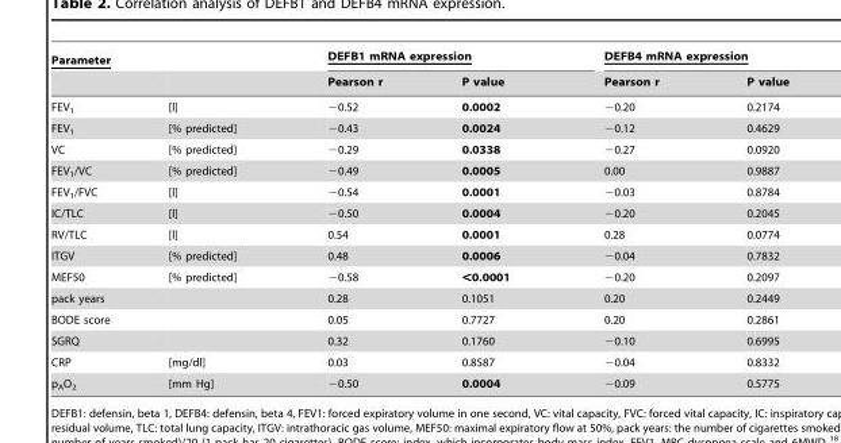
<table><thead><tr><td colspan="2">Parameter</td><td colspan="2">DEFB1 mRNA expression</td><td colspan="2">DEFB4 mRNA expression</td></tr><tr><td></td><td></td><td>Pearson r</td><td>P value</td><td>Pearson r</td><td>P value</td></tr></thead><tbody><tr><td>FEV<sub>1</sub></td><td>[l]</td><td>−0.52</td><td>0.0002</td><td>−0.20</td><td>0.2174</td></tr><tr><td>FEV<sub>1</sub></td><td>[% predicted]</td><td>−0.43</td><td>0.0024</td><td>−0.12</td><td>0.4629</td></tr><tr><td>VC</td><td>[% predicted]</td><td>−0.29</td><td>0.0338</td><td>−0.27</td><td>0.0920</td></tr><tr><td>FEV<sub>1</sub>/VC</td><td>[% predicted]</td><td>−0.49</td><td>0.0005</td><td>0.00</td><td>0.9887</td></tr><tr><td>FEV<sub>1</sub>/FVC</td><td>[l]</td><td>−0.54</td><td>0.0001</td><td>−0.03</td><td>0.8784</td></tr><tr><td>IC/TLC</td><td>[l]</td><td>−0.50</td><td>0.0004</td><td>−0.20</td><td>0.2045</td></tr><tr><td>RV/TLC</td><td>[l]</td><td>0.54</td><td>0.0001</td><td>0.28</td><td>0.0774</td></tr><tr><td>ITGV</td><td>[% predicted]</td><td>0.48</td><td>0.0006</td><td>−0.04</td><td>0.7832</td></tr><tr><td>MEF50</td><td>[% predicted]</td><td>−0.58</td><td>&lt;0.0001</td><td>−0.20</td><td>0.2097</td></tr><tr><td>pack years</td><td></td><td>0.28</td><td>0.1051</td><td>0.20</td><td>0.2449</td></tr><tr><td>BODE score</td><td></td><td>0.05</td><td>0.7727</td><td>0.20</td><td>0.2861</td></tr><tr><td>SGRQ</td><td></td><td>0.32</td><td>0.1760</td><td>−0.10</td><td>0.6995</td></tr><tr><td>CRP</td><td>[mg/dl]</td><td>0.03</td><td>0.8587</td><td>−0.04</td><td>0.8332</td></tr><tr><td>p<sub>A</sub>O<sub>2</sub></td><td>[mm Hg]</td><td>−0.50</td><td>0.0004</td><td>−0.09</td><td>0.5775</td></tr></tbody></table>